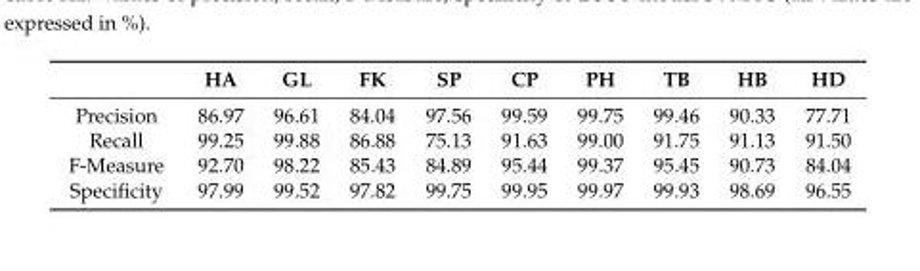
<table><thead><tr><td></td><td>HA</td><td>GL</td><td>FK</td><td>SP</td><td>CP</td><td>PH</td><td>TB</td><td>HB</td><td>HD</td></tr></thead><tbody><tr><td>Precision</td><td>86.97</td><td>96.61</td><td>84.04</td><td>97.56</td><td>99.59</td><td>99.75</td><td>99.46</td><td>90.33</td><td>77.71</td></tr><tr><td>Recall</td><td>99.25</td><td>99.88</td><td>86.88</td><td>75.13</td><td>91.63</td><td>99.00</td><td>91.75</td><td>91.13</td><td>91.50</td></tr><tr><td>F-Measure</td><td>92.70</td><td>98.22</td><td>85.43</td><td>84.89</td><td>95.44</td><td>99.37</td><td>95.45</td><td>90.73</td><td>84.04</td></tr><tr><td>Specificity</td><td>97.99</td><td>99.52</td><td>97.82</td><td>99.75</td><td>99.95</td><td>99.97</td><td>99.93</td><td>98.69</td><td>96.55</td></tr></tbody></table>